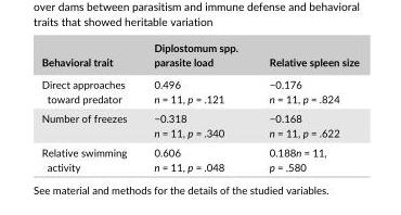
<table><thead><tr><td>Behavioral trait</td><td>Diplostomum spp. parasite load</td><td>Relative spleen size</td></tr></thead><tbody><tr><td>Direct approaches toward predator</td><td>0.496 n = 11, p = .121</td><td>−0.176 n = 11, p = .824</td></tr><tr><td>Number of freezes</td><td>−0.318 n = 11, p = .340</td><td>−0.168 n = 11, p = .622</td></tr><tr><td>Relative swimming activity</td><td>0.606 n = 11, p = .048</td><td>0.188n = 11, p = .580</td></tr></tbody></table>